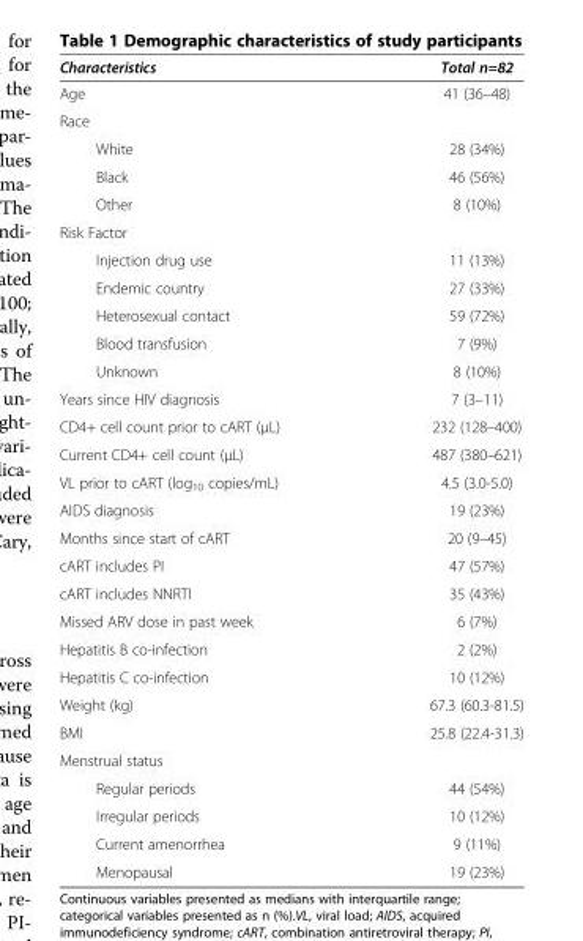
<table><thead><tr><td>Characteristics</td><td>Total n=82</td></tr></thead><tbody><tr><td>Age</td><td>41 (36–48)</td></tr><tr><td colspan="2">Race</td></tr><tr><td>White</td><td>28 (34%)</td></tr><tr><td>Black</td><td>46 (56%)</td></tr><tr><td>Other</td><td>8 (10%)</td></tr><tr><td colspan="2">Risk Factor</td></tr><tr><td>Injection drug use</td><td>11 (13%)</td></tr><tr><td>Endemic country</td><td>27 (33%)</td></tr><tr><td>Heterosexual contact</td><td>59 (72%)</td></tr><tr><td>Blood transfusion</td><td>7 (9%)</td></tr><tr><td>Unknown</td><td>8 (10%)</td></tr><tr><td>Years since HIV diagnosis</td><td>7 (3–11)</td></tr><tr><td>CD4+ cell count prior to cART (μL)</td><td>232 (128–400)</td></tr><tr><td>Current CD4+ cell count (μL)</td><td>487 (380–621)</td></tr><tr><td>VL prior to cART (log<sub>10</sub> copies/mL)</td><td>4.5 (3.0-5.0)</td></tr><tr><td>AIDS diagnosis</td><td>19 (23%)</td></tr><tr><td>Months since start of cART</td><td>20 (9–45)</td></tr><tr><td>cART includes PI</td><td>47 (57%)</td></tr><tr><td>cART includes NNRTI</td><td>35 (43%)</td></tr><tr><td>Missed ARV dose in past week</td><td>6 (7%)</td></tr><tr><td>Hepatitis B co-infection</td><td>2 (2%)</td></tr><tr><td>Hepatitis C co-infection</td><td>10 (12%)</td></tr><tr><td>Weight (kg)</td><td>67.3 (60.3-81.5)</td></tr><tr><td>BMI</td><td>25.8 (22.4-31.3)</td></tr><tr><td colspan="2">Menstrual status</td></tr><tr><td>Regular periods</td><td>44 (54%)</td></tr><tr><td>Irregular periods</td><td>10 (12%)</td></tr><tr><td>Current amenorrhea</td><td>9 (11%)</td></tr><tr><td>Menopausal</td><td>19 (23%)</td></tr></tbody></table>